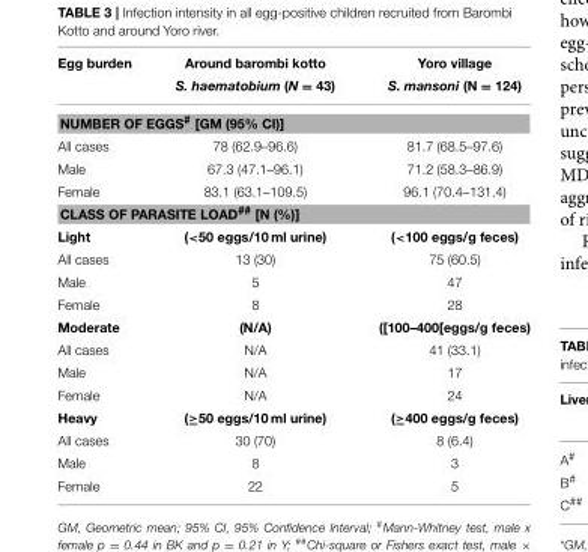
<table><thead><tr><td>Egg burden</td><td>Around barombi kotto S. haematobium (N = 43)</td><td>Yoro village S. mansoni (N = 124)</td></tr></thead><tbody><tr><td colspan="3">NUMBER OF EGGS<sup>#</sup> [GM (95% CI)]</td></tr><tr><td>All cases</td><td>78 (62.9–96.6)</td><td>81.7 (68.5–97.6)</td></tr><tr><td>Male</td><td>67.3 (47.1–96.1)</td><td>71.2 (58.3–86.9)</td></tr><tr><td>Female</td><td>83.1 (63.1–109.5)</td><td>96.1 (70.4–131.4)</td></tr><tr><td colspan="3">CLASS OF PARASITE LOAD<sup>##</sup> [N (%)]</td></tr><tr><td>Light</td><td>(&lt;50 eggs/10 ml urine)</td><td>(&lt;100 eggs/g feces)</td></tr><tr><td>All cases</td><td>13 (30)</td><td>75 (60.5)</td></tr><tr><td>Male</td><td>5</td><td>47</td></tr><tr><td>Female</td><td>8</td><td>28</td></tr><tr><td>Moderate</td><td>(N/A)</td><td>([100–400[eggs/g feces)</td></tr><tr><td>All cases</td><td>N/A</td><td>41 (33.1)</td></tr><tr><td>Male</td><td>N/A</td><td>17</td></tr><tr><td>Female</td><td>N/A</td><td>24</td></tr><tr><td>Heavy</td><td>(≥50 eggs/10 ml urine)</td><td>(≥400 eggs/g feces)</td></tr><tr><td>All cases</td><td>30 (70)</td><td>8 (6.4)</td></tr><tr><td>Male</td><td>8</td><td>3</td></tr><tr><td>Female</td><td>22</td><td>5</td></tr></tbody></table>